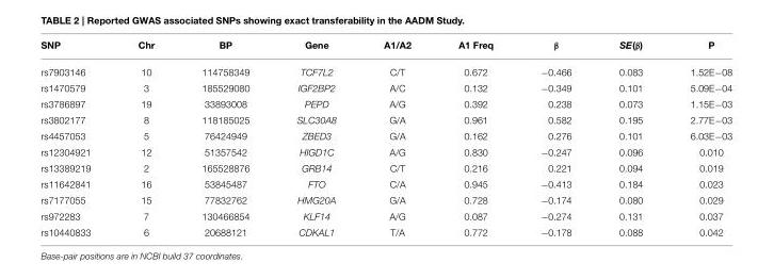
<table><thead><tr><td>SNP</td><td>Chr</td><td>BP</td><td>Gene</td><td>A1/A2</td><td>A1 Freq</td><td>β</td><td>SE(β)</td><td>P</td></tr></thead><tbody><tr><td>rs7903146</td><td>10</td><td>114758349</td><td>TCF7L2</td><td>C/T</td><td>0.672</td><td>−0.466</td><td>0.083</td><td>1.52E−08</td></tr><tr><td>rs1470579</td><td>3</td><td>185529080</td><td>IGF2BP2</td><td>A/C</td><td>0.132</td><td>−0.349</td><td>0.101</td><td>5.09E−04</td></tr><tr><td>rs3786897</td><td>19</td><td>33893008</td><td>PEPD</td><td>A/G</td><td>0.392</td><td>0.238</td><td>0.073</td><td>1.15E−03</td></tr><tr><td>rs3802177</td><td>8</td><td>118185025</td><td>SLC30A8</td><td>G/A</td><td>0.961</td><td>0.582</td><td>0.195</td><td>2.77E−03</td></tr><tr><td>rs4457053</td><td>5</td><td>76424949</td><td>ZBED3</td><td>G/A</td><td>0.162</td><td>0.276</td><td>0.101</td><td>6.03E−03</td></tr><tr><td>rs12304921</td><td>12</td><td>51357542</td><td>HIGD1C</td><td>A/G</td><td>0.830</td><td>−0.247</td><td>0.096</td><td>0.010</td></tr><tr><td>rs13389219</td><td>2</td><td>165528876</td><td>GRB14</td><td>C/T</td><td>0.216</td><td>0.221</td><td>0.094</td><td>0.019</td></tr><tr><td>rs11642841</td><td>16</td><td>53845487</td><td>FTO</td><td>C/A</td><td>0.945</td><td>−0.413</td><td>0.184</td><td>0.023</td></tr><tr><td>rs7177055</td><td>15</td><td>77832762</td><td>HMG20A</td><td>G/A</td><td>0.728</td><td>−0.174</td><td>0.080</td><td>0.029</td></tr><tr><td>rs972283</td><td>7</td><td>130466854</td><td>KLF14</td><td>A/G</td><td>0.087</td><td>−0.274</td><td>0.131</td><td>0.037</td></tr><tr><td>rs10440833</td><td>6</td><td>20688121</td><td>CDKAL1</td><td>T/A</td><td>0.772</td><td>−0.178</td><td>0.088</td><td>0.042</td></tr></tbody></table>